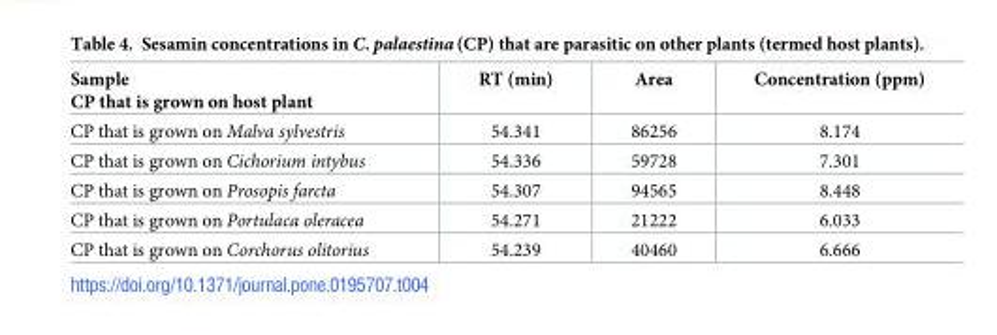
<table><thead><tr><td>Sample CP that is grown on host plant</td><td>RT (min)</td><td>Area</td><td>Concentration (ppm)</td></tr></thead><tbody><tr><td>CP that is grown on Malva sylvestris</td><td>54.341</td><td>86256</td><td>8.174</td></tr><tr><td>CP that is grown on Cichorium intybus</td><td>54.336</td><td>59728</td><td>7.301</td></tr><tr><td>CP that is grown on Prosopis farcta</td><td>54.307</td><td>94565</td><td>8.448</td></tr><tr><td>CP that is grown on Portulaca oleracea</td><td>54.271</td><td>21222</td><td>6.033</td></tr><tr><td>CP that is grown on Corchorus olitorius</td><td>54.239</td><td>40460</td><td>6.666</td></tr></tbody></table>